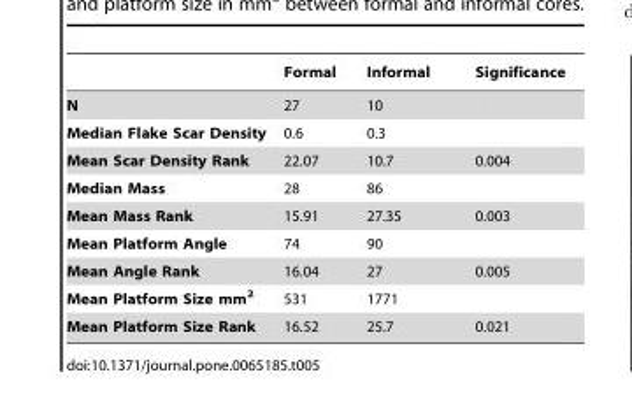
<table><thead><tr><td></td><td>Formal</td><td>Informal</td><td>Significance</td></tr></thead><tbody><tr><td>N</td><td>27</td><td>10</td><td></td></tr><tr><td>Median Flake Scar Density</td><td>0.6</td><td>0.3</td><td></td></tr><tr><td>Mean Scar Density Rank</td><td>22.07</td><td>10.7</td><td>0.004</td></tr><tr><td>Median Mass</td><td>28</td><td>86</td><td></td></tr><tr><td>Mean Mass Rank</td><td>15.91</td><td>27.35</td><td>0.003</td></tr><tr><td>Mean Platform Angle</td><td>74</td><td>90</td><td></td></tr><tr><td>Mean Angle Rank</td><td>16.04</td><td>27</td><td>0.005</td></tr><tr><td>Mean Platform Size mm<sup>2</sup></td><td>531</td><td>1771</td><td></td></tr><tr><td>Mean Platform Size Rank</td><td>16.52</td><td>25.7</td><td>0.021</td></tr></tbody></table>